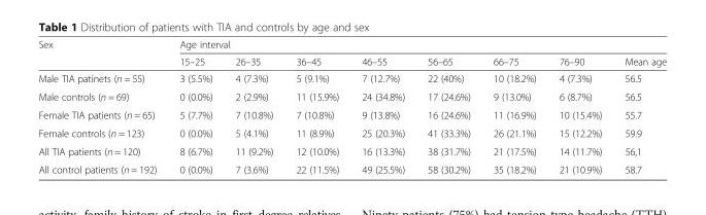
<table><thead><tr><td rowspan="2">Sex</td><td colspan="8">Age interval</td></tr><tr><td>15–25</td><td>26–35</td><td>36–45</td><td>46–55</td><td>56–65</td><td>66–75</td><td>76–90</td><td>Mean age</td></tr></thead><tbody><tr><td>Male TIA patinets (n = 55)</td><td>3 (5.5%)</td><td>4 (7.3%)</td><td>5 (9.1%)</td><td>7 (12.7%)</td><td>22 (40%)</td><td>10 (18.2%)</td><td>4 (7.3%)</td><td>56.5</td></tr><tr><td>Male controls (n = 69)</td><td>0 (0.0%)</td><td>2 (2.9%)</td><td>11 (15.9%)</td><td>24 (34.8%)</td><td>17 (24.6%)</td><td>9 (13.0%)</td><td>6 (8.7%)</td><td>56.5</td></tr><tr><td>Female TIA patients (n = 65)</td><td>5 (7.7%)</td><td>7 (10.8%)</td><td>7 (10.8%)</td><td>9 (13.8%)</td><td>16 (24.6%)</td><td>11 (16.9%)</td><td>10 (15.4%)</td><td>55.7</td></tr><tr><td>Female controls (n = 123)</td><td>0 (0.0%)</td><td>5 (4.1%)</td><td>11 (8.9%)</td><td>25 (20.3%)</td><td>41 (33.3%)</td><td>26 (21.1%)</td><td>15 (12.2%)</td><td>59.9</td></tr><tr><td>All TIA patients (n = 120)</td><td>8 (6.7%)</td><td>11 (9.2%)</td><td>12 (10.0%)</td><td>16 (13.3%)</td><td>38 (31.7%)</td><td>21 (17.5%)</td><td>14 (11.7%)</td><td>56,1</td></tr><tr><td>All control patients (n = 192)</td><td>0 (0.0%)</td><td>7 (3.6%)</td><td>22 (11.5%)</td><td>49 (25.5%)</td><td>58 (30.2%)</td><td>35 (18.2%)</td><td>21 (10.9%)</td><td>58.7</td></tr></tbody></table>